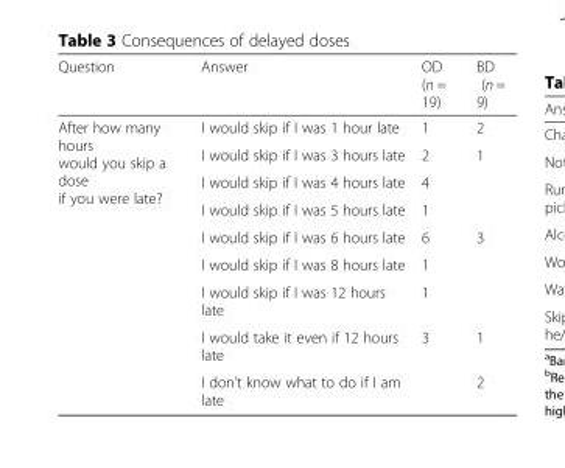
<table><thead><tr><td>Question</td><td>Answer</td><td>OD (n = 19)</td><td>BD (n = 9)</td></tr></thead><tbody><tr><td rowspan="9">After how many hours would you skip a dose if you were late?</td><td>I would skip if I was 1 hour late</td><td>1</td><td>2</td></tr><tr><td>I would skip if I was 3 hours late</td><td>2</td><td>1</td></tr><tr><td>I would skip if I was 4 hours late</td><td>4</td><td></td></tr><tr><td>I would skip if I was 5 hours late</td><td>1</td><td></td></tr><tr><td>I would skip if I was 6 hours late</td><td>6</td><td>3</td></tr><tr><td>I would skip if I was 8 hours late</td><td>1</td><td></td></tr><tr><td>I would skip if I was 12 hours late</td><td>1</td><td></td></tr><tr><td>I would take it even if 12 hours late</td><td>3</td><td>1</td></tr><tr><td>I don’t know what to do if I am late</td><td></td><td>2</td></tr></tbody></table>